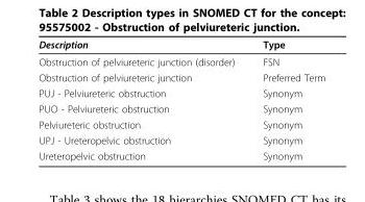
<table><thead><tr><td>Description</td><td>Type</td></tr></thead><tbody><tr><td>Obstruction of pelviureteric junction (disorder)</td><td>FSN</td></tr><tr><td>Obstruction of pelviureteric junction</td><td>Preferred Term</td></tr><tr><td>PUJ - Pelviureteric obstruction</td><td>Synonym</td></tr><tr><td>PUO - Pelviureteric obstruction</td><td>Synonym</td></tr><tr><td>Pelviureteric obstruction</td><td>Synonym</td></tr><tr><td>UPJ - Ureteropelvic obstruction</td><td>Synonym</td></tr><tr><td>Ureteropelvic obstruction</td><td>Synonym</td></tr></tbody></table>